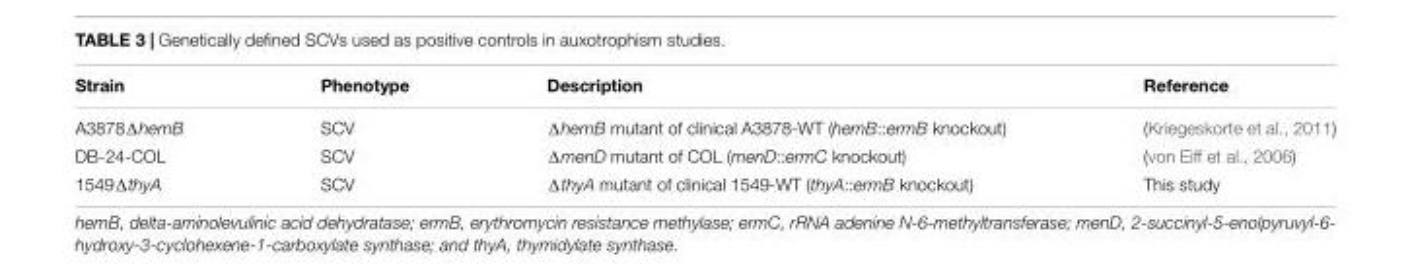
<table><thead><tr><td>Strain</td><td>Phenotype</td><td>Description</td><td>Reference</td></tr></thead><tbody><tr><td>A3878ΔhemB</td><td>SCV</td><td>ΔhemB mutant of clinical A3878-WT (hemB::ermB knockout)</td><td>(Kriegeskorte et al., 2011)</td></tr><tr><td>DB-24-COL</td><td>SCV</td><td>ΔmenD mutant of COL (menD::ermC knockout)</td><td>(von Eiff et al., 2006)</td></tr><tr><td>1549ΔthyA</td><td>SCV</td><td>ΔthyA mutant of clinical 1549-WT (thyA::ermB knockout)</td><td>This study</td></tr></tbody></table>